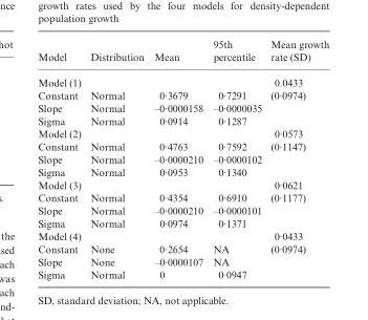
<table><thead><tr><td>Model</td><td>Distribution</td><td>Mean</td><td>95th percentile</td><td>Mean growth rate (SD)</td></tr></thead><tbody><tr><td>Model (1)</td><td></td><td></td><td></td><td>0.0433</td></tr><tr><td>Constant</td><td>Normal</td><td>0·3679</td><td>0·7291</td><td>(0·0974)</td></tr><tr><td>Slope</td><td>Normal</td><td>–0·0000158</td><td>–0·0000035</td><td></td></tr><tr><td>Sigma</td><td>Normal</td><td>0·0914</td><td>0·1287</td><td></td></tr><tr><td>Model (2)</td><td></td><td></td><td></td><td>0·0573</td></tr><tr><td>Constant</td><td>Normal</td><td>0·4763</td><td>0·7592</td><td>(0·1147)</td></tr><tr><td>Slope</td><td>Normal</td><td>–0·0000210</td><td>–0·0000102</td><td></td></tr><tr><td>Sigma</td><td>Normal</td><td>0·0953</td><td>0·1340</td><td></td></tr><tr><td>Model (3)</td><td></td><td></td><td></td><td>0·0621</td></tr><tr><td>Constant</td><td>Normal</td><td>0·4354</td><td>0·6910</td><td>(0·1177)</td></tr><tr><td>Slope</td><td>Normal</td><td>–0·0000210</td><td>–0·0000101</td><td></td></tr><tr><td>Sigma</td><td>Normal</td><td>0·0974</td><td>0·1371</td><td></td></tr><tr><td>Model (4)</td><td></td><td></td><td></td><td>0·0433</td></tr><tr><td>Constant</td><td>None</td><td>0·2654</td><td>NA</td><td>(0·0974)</td></tr><tr><td>Slope</td><td>None</td><td>–0·0000107</td><td>NA</td><td></td></tr><tr><td>Sigma</td><td>Normal</td><td>0</td><td>0·0947</td><td></td></tr></tbody></table>